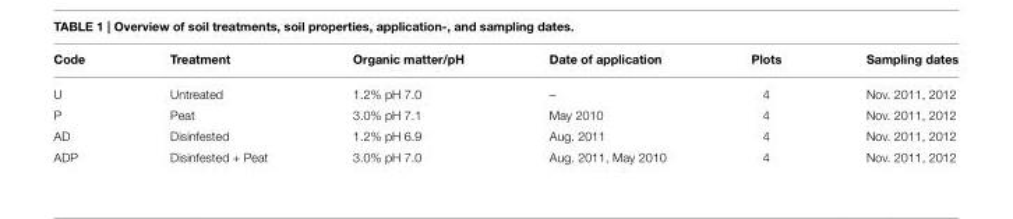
<table><thead><tr><td>Code</td><td>Treatment</td><td>Organic matter/pH</td><td>Date of application</td><td>Plots</td><td>Sampling dates</td></tr></thead><tbody><tr><td>U</td><td>Untreated</td><td>1.2% pH 7.0</td><td>–</td><td>4</td><td>Nov. 2011, 2012</td></tr><tr><td>P</td><td>Peat</td><td>3.0% pH 7.1</td><td>May 2010</td><td>4</td><td>Nov. 2011, 2012</td></tr><tr><td>AD</td><td>Disinfested</td><td>1.2% pH 6.9</td><td>Aug. 2011</td><td>4</td><td>Nov. 2011, 2012</td></tr><tr><td>ADP</td><td>Disinfested + Peat</td><td>3.0% pH 7.0</td><td>Aug. 2011, May 2010</td><td>4</td><td>Nov. 2011, 2012</td></tr></tbody></table>